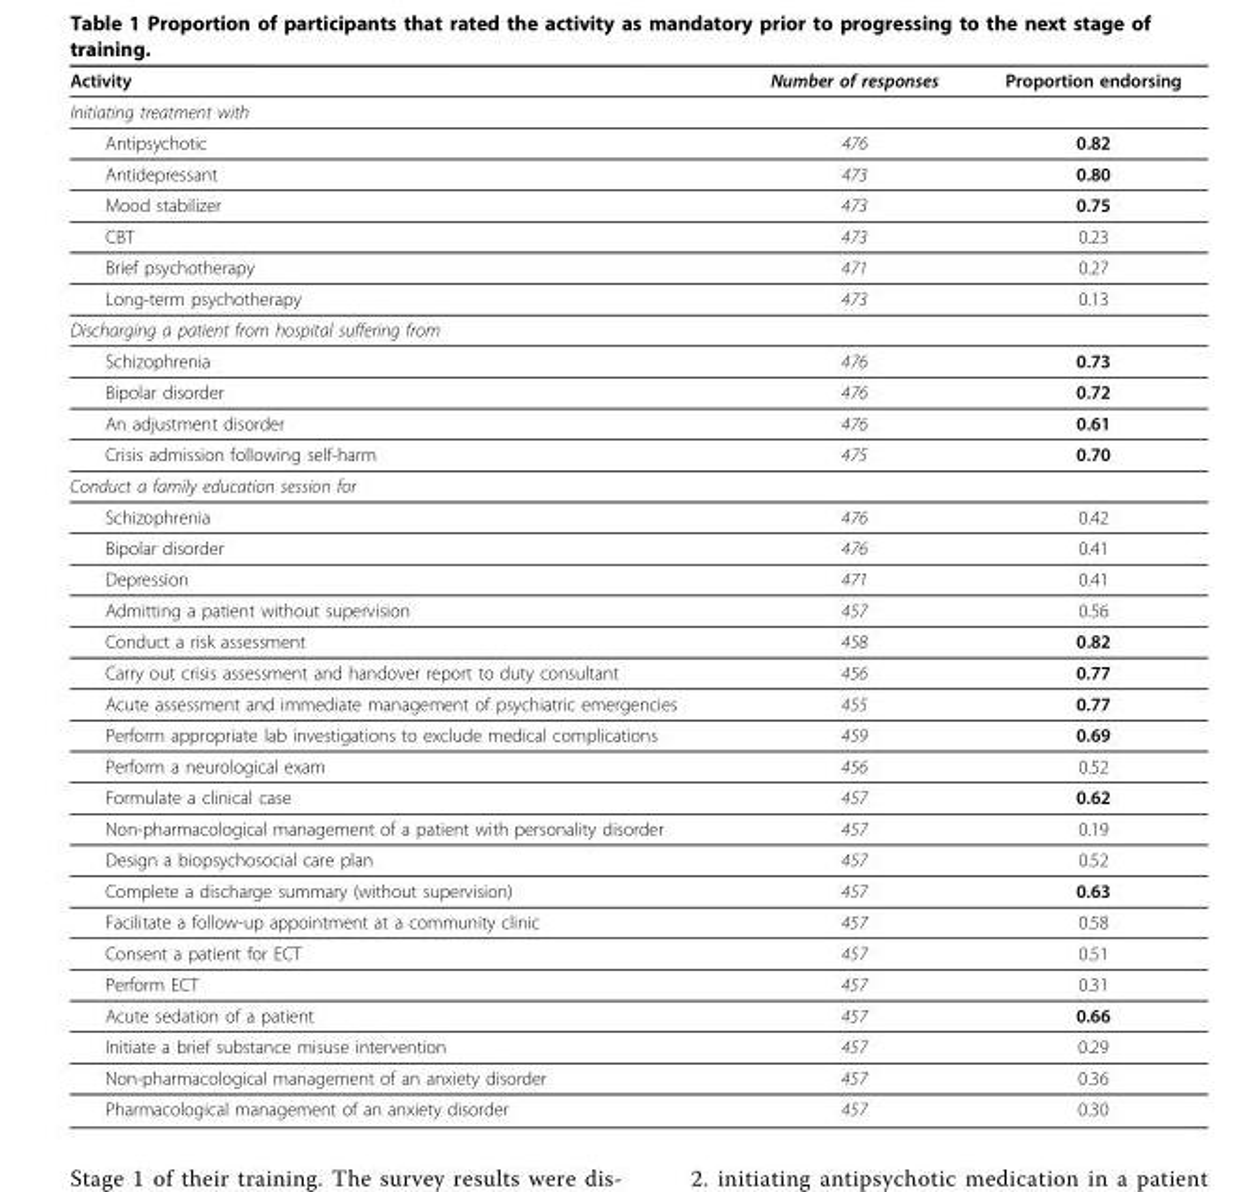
<table><thead><tr><td>Activity</td><td>Number of responses</td><td>Proportion endorsing</td></tr></thead><tbody><tr><td colspan="3">Initiating treatment with</td></tr><tr><td>Antipsychotic</td><td>476</td><td>0.82</td></tr><tr><td>Antidepressant</td><td>473</td><td>0.80</td></tr><tr><td>Mood stabilizer</td><td>473</td><td>0.75</td></tr><tr><td>CBT</td><td>473</td><td>0.23</td></tr><tr><td>Brief psychotherapy</td><td>471</td><td>0.27</td></tr><tr><td>Long-term psychotherapy</td><td>473</td><td>0.13</td></tr><tr><td colspan="3">Discharging a patient from hospital suffering from</td></tr><tr><td>Schizophrenia</td><td>476</td><td>0.73</td></tr><tr><td>Bipolar disorder</td><td>476</td><td>0.72</td></tr><tr><td>An adjustment disorder</td><td>476</td><td>0.61</td></tr><tr><td>Crisis admission following self-harm</td><td>475</td><td>0.70</td></tr><tr><td colspan="3">Conduct a family education session for</td></tr><tr><td>Schizophrenia</td><td>476</td><td>0.42</td></tr><tr><td>Bipolar disorder</td><td>476</td><td>0.41</td></tr><tr><td>Depression</td><td>471</td><td>0.41</td></tr><tr><td>Admitting a patient without supervision</td><td>457</td><td>0.56</td></tr><tr><td>Conduct a risk assessment</td><td>458</td><td>0.82</td></tr><tr><td>Carry out crisis assessment and handover report to duty consultant</td><td>456</td><td>0.77</td></tr><tr><td>Acute assessment and immediate management of psychiatric emergencies</td><td>455</td><td>0.77</td></tr><tr><td>Perform appropriate lab investigations to exclude medical complications</td><td>459</td><td>0.69</td></tr><tr><td>Perform a neurological exam</td><td>456</td><td>0.52</td></tr><tr><td>Formulate a clinical case</td><td>457</td><td>0.62</td></tr><tr><td>Non-pharmacological management of a patient with personality disorder</td><td>457</td><td>0.19</td></tr><tr><td>Design a biopsychosocial care plan</td><td>457</td><td>0.52</td></tr><tr><td>Complete a discharge summary (without supervision)</td><td>457</td><td>0.63</td></tr><tr><td>Facilitate a follow-up appointment at a community clinic</td><td>457</td><td>0.58</td></tr><tr><td>Consent a patient for ECT</td><td>457</td><td>0.51</td></tr><tr><td>Perform ECT</td><td>457</td><td>0.31</td></tr><tr><td>Acute sedation of a patient</td><td>457</td><td>0.66</td></tr><tr><td>Initiate a brief substance misuse intervention</td><td>457</td><td>0.29</td></tr><tr><td>Non-pharmacological management of an anxiety disorder</td><td>457</td><td>0.36</td></tr><tr><td>Pharmacological management of an anxiety disorder</td><td>457</td><td>0.30</td></tr></tbody></table>